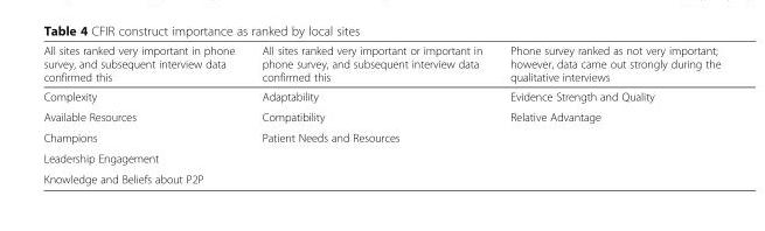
<table><thead><tr><td>All sites ranked very important in phone survey, and subsequent interview data confirmed this</td><td>All sites ranked very important or important in phone survey, and subsequent interview data confirmed this</td><td>Phone survey ranked as not very important; however, data came out strongly during the qualitative interviews</td></tr></thead><tbody><tr><td>Complexity</td><td>Adaptability</td><td>Evidence Strength and Quality</td></tr><tr><td>Available Resources</td><td>Compatibility</td><td>Relative Advantage</td></tr><tr><td>Champions</td><td>Patient Needs and Resources</td><td></td></tr><tr><td colspan="3">Leadership Engagement</td></tr><tr><td>Knowledge and Beliefs about P2P</td><td></td><td></td></tr></tbody></table>